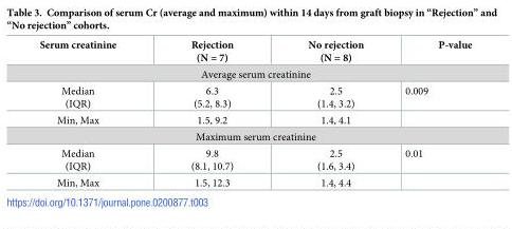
<table><thead><tr><td>Serum creatinine</td><td>Rejection (N = 7)</td><td>No rejection (N = 8)</td><td>P-value</td></tr></thead><tbody><tr><td colspan="4">Average serum creatinine</td></tr><tr><td>Median (IQR)</td><td>6.3 (5.2, 8.3)</td><td>2.5 (1.4, 3.2)</td><td>0.009</td></tr><tr><td>Min, Max</td><td>1.5, 9.2</td><td>1.4, 4.1</td><td></td></tr><tr><td colspan="4">Maximum serum creatinine</td></tr><tr><td>Median (IQR)</td><td>9.8 (8.1, 10.7)</td><td>2.5 (1.6, 3.4)</td><td>0.01</td></tr><tr><td>Min, Max</td><td>1.5, 12.3</td><td>1.4, 4.4</td><td></td></tr></tbody></table>